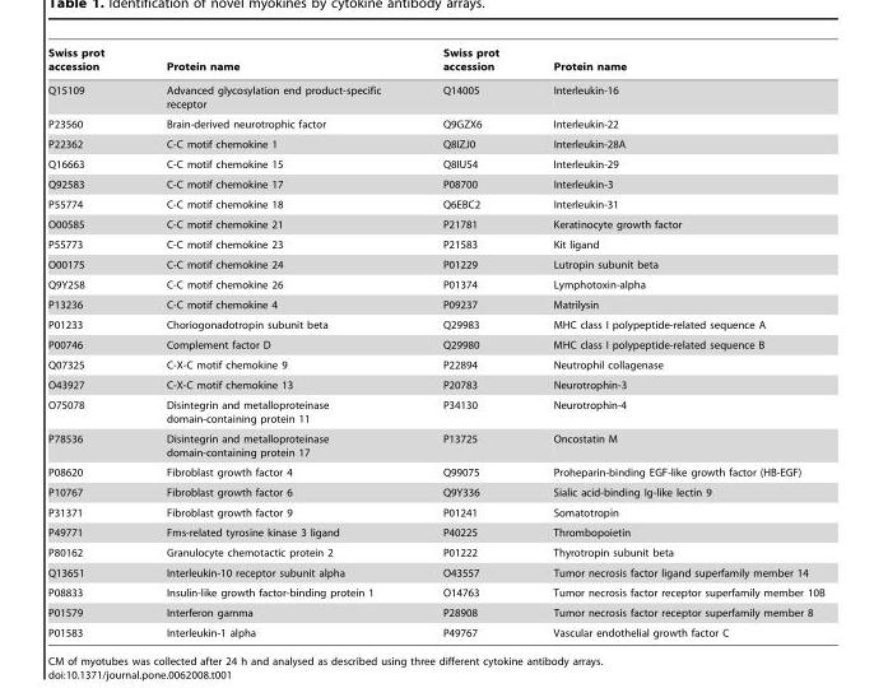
<table><thead><tr><td>Swiss prot accession</td><td>Protein name</td><td>Swiss prot accession</td><td>Protein name</td></tr></thead><tbody><tr><td>Q15109</td><td>Advanced glycosylation end product-specific receptor</td><td>Q14005</td><td>Interleukin-16</td></tr><tr><td>P23560</td><td>Brain-derived neurotrophic factor</td><td>Q9GZX6</td><td>Interleukin-22</td></tr><tr><td>P22362</td><td>C-C motif chemokine 1</td><td>Q8IZJ0</td><td>Interleukin-28A</td></tr><tr><td>Q16663</td><td>C-C motif chemokine 15</td><td>Q8IU54</td><td>Interleukin-29</td></tr><tr><td>Q92583</td><td>C-C motif chemokine 17</td><td>P08700</td><td>Interleukin-3</td></tr><tr><td>P55774</td><td>C-C motif chemokine 18</td><td>Q6EBC2</td><td>Interleukin-31</td></tr><tr><td>O00585</td><td>C-C motif chemokine 21</td><td>P21781</td><td>Keratinocyte growth factor</td></tr><tr><td>P55773</td><td>C-C motif chemokine 23</td><td>P21583</td><td>Kit ligand</td></tr><tr><td>O00175</td><td>C-C motif chemokine 24</td><td>P01229</td><td>Lutropin subunit beta</td></tr><tr><td>Q9Y258</td><td>C-C motif chemokine 26</td><td>P01374</td><td>Lymphotoxin-alpha</td></tr><tr><td>P13236</td><td>C-C motif chemokine 4</td><td>P09237</td><td>Matrilysin</td></tr><tr><td>P01233</td><td>Choriogonadotropin subunit beta</td><td>Q29983</td><td>MHC class I polypeptide-related sequence A</td></tr><tr><td>P00746</td><td>Complement factor D</td><td>Q29980</td><td>MHC class I polypeptide-related sequence B</td></tr><tr><td>Q07325</td><td>C-X-C motif chemokine 9</td><td>P22894</td><td>Neutrophil collagenase</td></tr><tr><td>O43927</td><td>C-X-C motif chemokine 13</td><td>P20783</td><td>Neurotrophin-3</td></tr><tr><td>O75078</td><td>Disintegrin and metalloproteinase domain-containing protein 11</td><td>P34130</td><td>Neurotrophin-4</td></tr><tr><td>P78536</td><td>Disintegrin and metalloproteinase domain-containing protein 17</td><td>P13725</td><td>Oncostatin M</td></tr><tr><td>P08620</td><td>Fibroblast growth factor 4</td><td>Q99075</td><td>Proheparin-binding EGF-like growth factor (HB-EGF)</td></tr><tr><td>P10767</td><td>Fibroblast growth factor 6</td><td>Q9Y336</td><td>Sialic acid-binding Ig-like lectin 9</td></tr><tr><td>P31371</td><td>Fibroblast growth factor 9</td><td>P01241</td><td>Somatotropin</td></tr><tr><td>P49771</td><td>Fms-related tyrosine kinase 3 ligand</td><td>P40225</td><td>Thrombopoietin</td></tr><tr><td>P80162</td><td>Granulocyte chemotactic protein 2</td><td>P01222</td><td>Thyrotropin subunit beta</td></tr><tr><td>Q13651</td><td>Interleukin-10 receptor subunit alpha</td><td>O43557</td><td>Tumor necrosis factor ligand superfamily member 14</td></tr><tr><td>P08833</td><td>Insulin-like growth factor-binding protein 1</td><td>O14763</td><td>Tumor necrosis factor receptor superfamily member 10B</td></tr><tr><td>P01579</td><td>Interferon gamma</td><td>P28908</td><td>Tumor necrosis factor receptor superfamily member 8</td></tr><tr><td>P01583</td><td>Interleukin-1 alpha</td><td>P49767</td><td>Vascular endothelial growth factor C</td></tr></tbody></table>